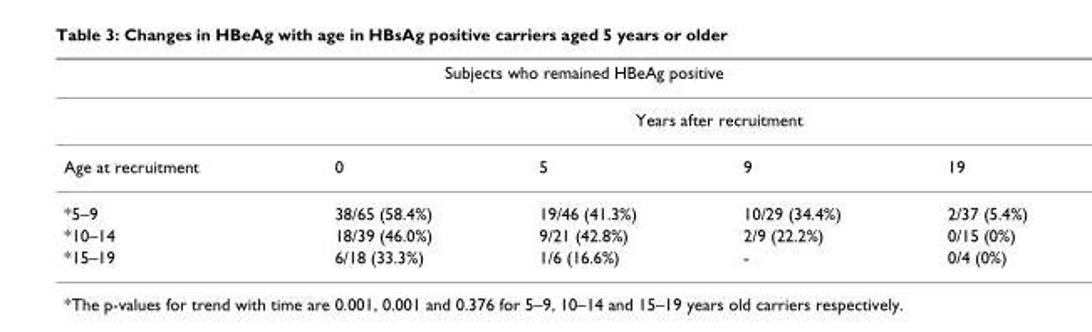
<table><thead><tr><td colspan="5">Subjects who remained HBeAg positive</td></tr><tr><td rowspan="2">Age at recruitment</td><td colspan="4">Years after recruitment</td></tr><tr><td>0</td><td>5</td><td>9</td><td>19</td></tr></thead><tbody><tr><td>*5–9</td><td>38/65 (58.4%)</td><td>19/46 (41.3%)</td><td>10/29 (34.4%)</td><td>2/37 (5.4%)</td></tr><tr><td>*10–14</td><td>18/39 (46.0%)</td><td>9/21 (42.8%)</td><td>2/9 (22.2%)</td><td>0/15 (0%)</td></tr><tr><td>*15–19</td><td>6/18 (33.3%)</td><td>1/6 (16.6%)</td><td>-</td><td>0/4 (0%)</td></tr></tbody></table>